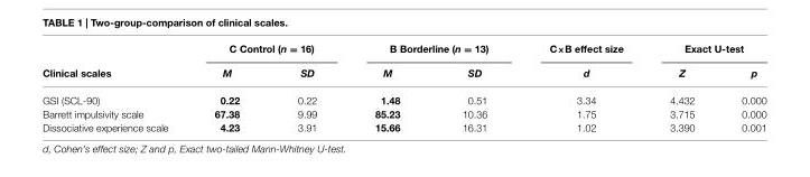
<table><thead><tr><td rowspan="2">Clinical scales</td><td colspan="2">C Control (n = 16)</td><td colspan="2">B Borderline (n = 13)</td><td rowspan="2">C×B effect size d</td><td colspan="2">Exact U-test</td></tr><tr><td>M</td><td>SD</td><td>M</td><td>SD</td><td>Z</td><td>p</td></tr></thead><tbody><tr><td>GSI (SCL-90)</td><td>0.22</td><td>0.22</td><td>1.48</td><td>0.51</td><td>3.34</td><td>4.432</td><td>0.000</td></tr><tr><td>Barrett impulsivity scale</td><td>67.38</td><td>9.99</td><td>85.23</td><td>10.36</td><td>1.75</td><td>3.715</td><td>0.000</td></tr><tr><td>Dissociative experience scale</td><td>4.23</td><td>3.91</td><td>15.66</td><td>16.31</td><td>1.02</td><td>3.390</td><td>0.001</td></tr></tbody></table>